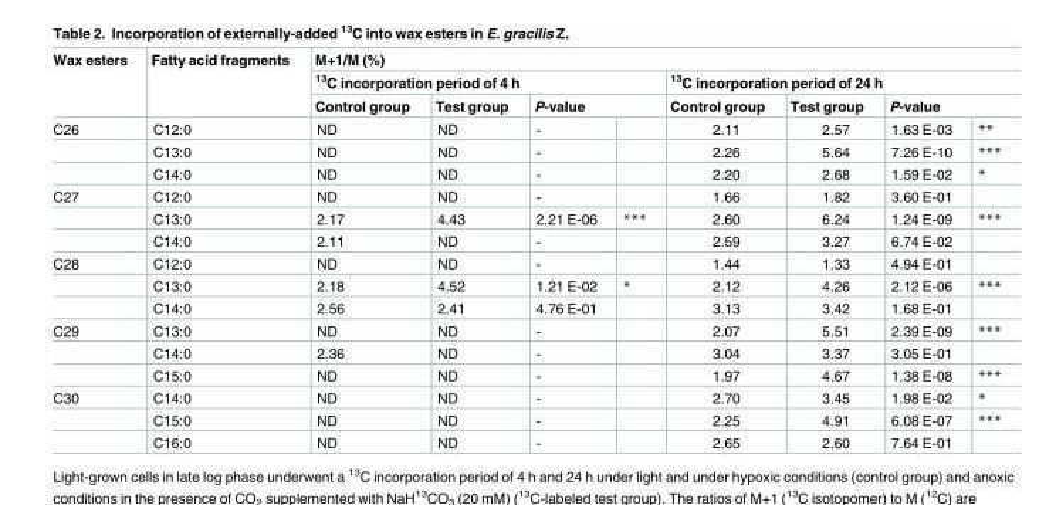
<table><thead><tr><td rowspan="4">Wax esters C26</td><td rowspan="4">Fatty acid fragments C12:0</td><td colspan="8">M+1/M (%)</td></tr><tr><td colspan="4"><sup>13</sup>C incorporation period of 4 h</td><td colspan="4"><sup>13</sup>C incorporation period of 24 h</td></tr><tr><td rowspan="2">Control group ND</td><td rowspan="2">Test group ND</td><td colspan="2">P-value</td><td rowspan="2">Control group 2.11</td><td rowspan="2">Test group 2.57</td><td colspan="2">P-value</td></tr><tr><td>-</td><td></td><td>1.63 E-03</td><td>**</td></tr></thead><tbody><tr><td></td><td>C13:0</td><td>ND</td><td>ND</td><td>-</td><td></td><td>2.26</td><td>5.64</td><td>7.26 E-10</td><td>***</td></tr><tr><td></td><td>C14:0</td><td>ND</td><td>ND</td><td>-</td><td></td><td>2.20</td><td>2.68</td><td>1.59 E-02</td><td>*</td></tr><tr><td rowspan="3">C27</td><td>C12:0</td><td>ND</td><td>ND</td><td>-</td><td></td><td>1.66</td><td>1.82</td><td>3.60 E-01</td><td></td></tr><tr><td>C13:0</td><td>2.17</td><td>4.43</td><td>2.21 E-06</td><td>***</td><td>2.60</td><td>6.24</td><td>1.24 E-09</td><td>***</td></tr><tr><td>C14:0</td><td>2.11</td><td>ND</td><td>-</td><td></td><td>2.59</td><td>3.27</td><td>6.74 E-02</td><td></td></tr><tr><td rowspan="3">C28</td><td>C12:0</td><td>ND</td><td>ND</td><td>-</td><td></td><td>1.44</td><td>1.33</td><td>4.94 E-01</td><td></td></tr><tr><td>C13:0</td><td>2.18</td><td>4.52</td><td>1.21 E-02</td><td>*</td><td>2.12</td><td>4.26</td><td>2.12 E-06</td><td>***</td></tr><tr><td>C14:0</td><td>2.56</td><td>2.41</td><td>4.76 E-01</td><td></td><td>3.13</td><td>3.42</td><td>1.68 E-01</td><td></td></tr><tr><td rowspan="3">C29</td><td>C13:0</td><td>ND</td><td>ND</td><td>-</td><td></td><td>2.07</td><td>5.51</td><td>2.39 E-09</td><td>***</td></tr><tr><td>C14:0</td><td>2.36</td><td>ND</td><td>-</td><td></td><td>3.04</td><td>3.37</td><td>3.05 E-01</td><td></td></tr><tr><td>C15:0</td><td>ND</td><td>ND</td><td>-</td><td></td><td>1.97</td><td>4.67</td><td>1.38 E-08</td><td>***</td></tr><tr><td rowspan="3">C30</td><td>C14:0</td><td>ND</td><td>ND</td><td>-</td><td></td><td>2.70</td><td>3.45</td><td>1.98 E-02</td><td>*</td></tr><tr><td>C15:0</td><td>ND</td><td>ND</td><td>-</td><td></td><td>2.25</td><td>4.91</td><td>6.08 E-07</td><td>***</td></tr><tr><td>C16:0</td><td>ND</td><td>ND</td><td>-</td><td></td><td>2.65</td><td>2.60</td><td>7.64 E-01</td><td></td></tr></tbody></table>